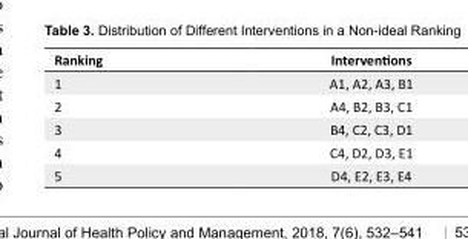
<table><tbody><tr><td>Ranking</td><td>Interventions</td></tr><tr><td>1</td><td>A1, A2, A3, B1</td></tr><tr><td>2</td><td>A4, B2, B3, C1</td></tr><tr><td>3</td><td>B4, C2, C3, D1</td></tr><tr><td>4</td><td>C4, D2, D3, E1</td></tr><tr><td>5</td><td>D4, E2, E3, E4</td></tr></tbody></table>